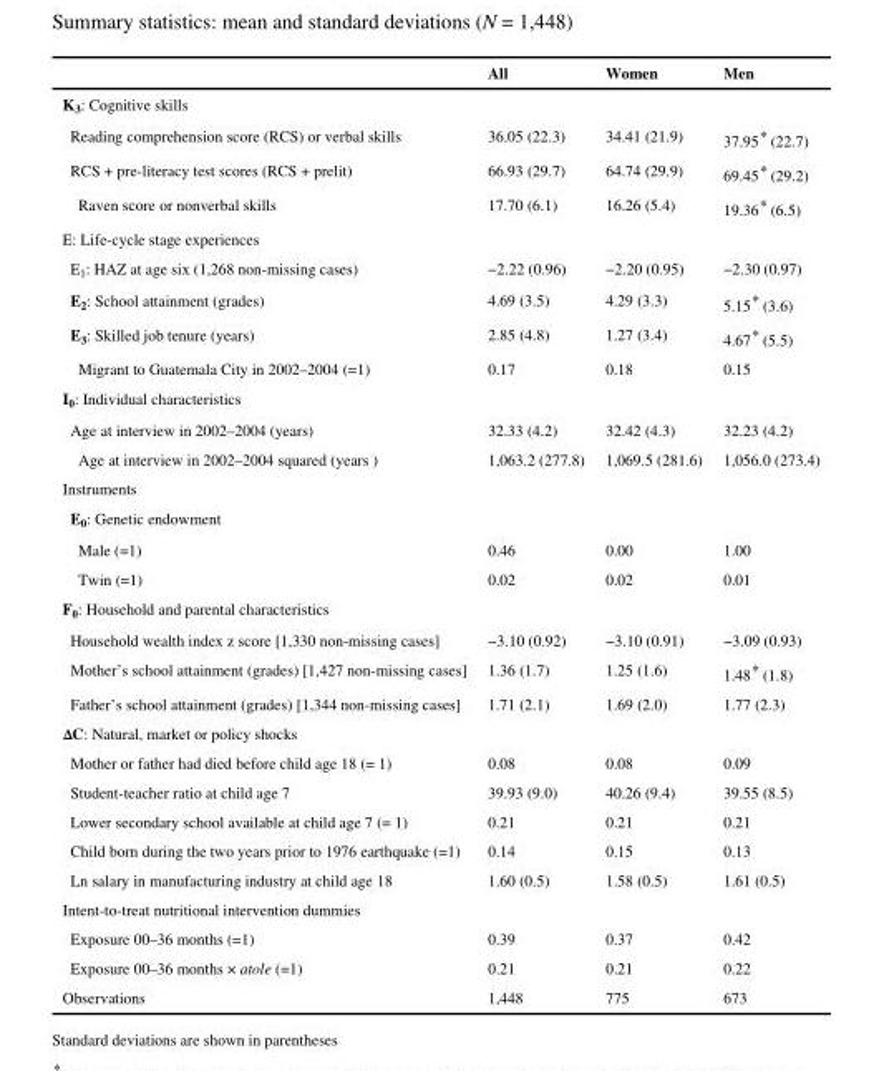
<table><thead><tr><td></td><td>All</td><td>Women</td><td>Men</td></tr></thead><tbody><tr><td colspan="4">K<sub>3</sub>: Cognitive skills</td></tr><tr><td>Reading comprehension score (RCS) or verbal skills</td><td>36.05 (22.3)</td><td>34.41 (21.9)</td><td>37.95* (22.7)</td></tr><tr><td>RCS + pre-literacy test scores (RCS + prelit)</td><td>66.93 (29.7)</td><td>64.74 (29.9)</td><td>69.45* (29.2)</td></tr><tr><td>Raven score or nonverbal skills</td><td>17.70 (6.1)</td><td>16.26 (5.4)</td><td>19.36* (6.5)</td></tr><tr><td colspan="4">E: Life-cycle stage experiences</td></tr><tr><td>E<sub>1</sub>: HAZ at age six (1,268 non-missing cases)</td><td>−2.22 (0.96)</td><td>−2.20 (0.95)</td><td>−2.30 (0.97)</td></tr><tr><td>E<sub>2</sub>: School attainment (grades)</td><td>4.69 (3.5)</td><td>4.29 (3.3)</td><td>5.15* (3.6)</td></tr><tr><td>E<sub>3</sub>: Skilled job tenure (years)</td><td>2.85 (4.8)</td><td>1.27 (3.4)</td><td>4.67* (5.5)</td></tr><tr><td>Migrant to Guatemala City in 2002–2004 (=1)</td><td>0.17</td><td>0.18</td><td>0.15</td></tr><tr><td colspan="4">I<sub>0</sub>: Individual characteristics</td></tr><tr><td>Age at interview in 2002–2004 (years)</td><td>32.33 (4.2)</td><td>32.42 (4.3)</td><td>32.23 (4.2)</td></tr><tr><td>Age at interview in 2002–2004 squared (years )</td><td>1,063.2 (277.8)</td><td>1,069.5 (281.6)</td><td>1,056.0 (273.4)</td></tr><tr><td colspan="4">Instruments</td></tr><tr><td colspan="4">E<sub>0</sub>: Genetic endowment</td></tr><tr><td>Male (=1)</td><td>0.46</td><td>0.00</td><td>1.00</td></tr><tr><td>Twin (=1)</td><td>0.02</td><td>0.02</td><td>0.01</td></tr><tr><td colspan="4">F<sub>0</sub>: Household and parental characteristics</td></tr><tr><td>Household wealth index z score [1,330 non-missing cases]</td><td>−3.10 (0.92)</td><td>−3.10 (0.91)</td><td>−3.09 (0.93)</td></tr><tr><td>Mother’s school attainment (grades) [1,427 non-missing cases]</td><td>1.36 (1.7)</td><td>1.25 (1.6)</td><td>1.48* (1.8)</td></tr><tr><td>Father’s school attainment (grades) [1,344 non-missing cases]</td><td>1.71 (2.1)</td><td>1.69 (2.0)</td><td>1.77 (2.3)</td></tr><tr><td colspan="4">ΔC: Natural, market or policy shocks</td></tr><tr><td>Mother or father had died before child age 18 (= 1)</td><td>0.08</td><td>0.08</td><td>0.09</td></tr><tr><td>Student-teacher ratio at child age 7</td><td>39.93 (9.0)</td><td>40.26 (9.4)</td><td>39.55 (8.5)</td></tr><tr><td>Lower secondary school available at child age 7 (= 1)</td><td>0.21</td><td>0.21</td><td>0.21</td></tr><tr><td>Child born during the two years prior to 1976 earthquake (=1)</td><td>0.14</td><td>0.15</td><td>0.13</td></tr><tr><td>Ln salary in manufacturing industry at child age 18</td><td>1.60 (0.5)</td><td>1.58 (0.5)</td><td>1.61 (0.5)</td></tr><tr><td colspan="4">Intent-to-treat nutritional intervention dummies</td></tr><tr><td>Exposure 00–36 months (=1)</td><td>0.39</td><td>0.37</td><td>0.42</td></tr><tr><td>Exposure 00–36 months × atole (=1)</td><td>0.21</td><td>0.21</td><td>0.22</td></tr><tr><td>Observations</td><td>1,448</td><td>775</td><td>673</td></tr></tbody></table>